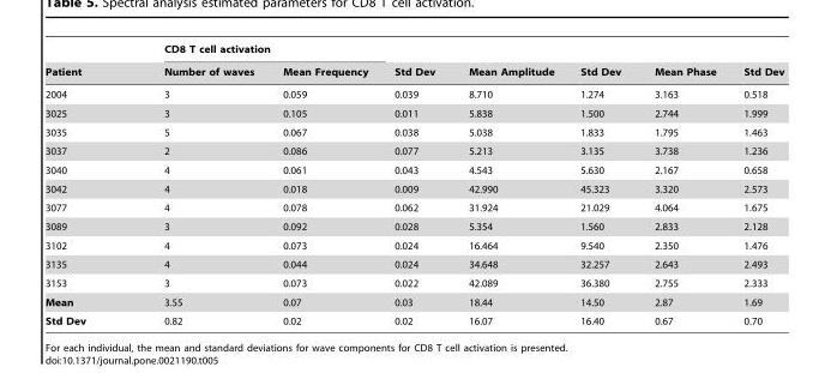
<table><thead><tr><td rowspan="2">Patient</td><td colspan="2">CD8 T cell activation</td><td rowspan="2">Std Dev</td><td rowspan="2">Mean Amplitude</td><td rowspan="2">Std Dev</td><td rowspan="2">Mean Phase</td><td rowspan="2">Std Dev</td></tr><tr><td>Number of waves</td><td>Mean Frequency</td></tr></thead><tbody><tr><td>2004</td><td>3</td><td>0.059</td><td>0.039</td><td>8.710</td><td>1.274</td><td>3.163</td><td>0.518</td></tr><tr><td>3025</td><td>3</td><td>0.105</td><td>0.011</td><td>5.838</td><td>1.500</td><td>2.744</td><td>1.999</td></tr><tr><td>3035</td><td>5</td><td>0.067</td><td>0.038</td><td>5.038</td><td>1.833</td><td>1.795</td><td>1.463</td></tr><tr><td>3037</td><td>2</td><td>0.086</td><td>0.077</td><td>5.213</td><td>3.135</td><td>3.738</td><td>1.236</td></tr><tr><td>3040</td><td>4</td><td>0.061</td><td>0.043</td><td>4.543</td><td>5.630</td><td>2.167</td><td>0.658</td></tr><tr><td>3042</td><td>4</td><td>0.018</td><td>0.009</td><td>42.990</td><td>45.323</td><td>3.320</td><td>2.573</td></tr><tr><td>3077</td><td>4</td><td>0.078</td><td>0.062</td><td>31.924</td><td>21.029</td><td>4.064</td><td>1.675</td></tr><tr><td>3089</td><td>3</td><td>0.092</td><td>0.028</td><td>5.354</td><td>1.560</td><td>2.833</td><td>2.128</td></tr><tr><td>3102</td><td>4</td><td>0.073</td><td>0.024</td><td>16.464</td><td>9.540</td><td>2.350</td><td>1.476</td></tr><tr><td>3135</td><td>4</td><td>0.044</td><td>0.024</td><td>34.648</td><td>32.257</td><td>2.643</td><td>2.493</td></tr><tr><td>3153</td><td>3</td><td>0.073</td><td>0.022</td><td>42.089</td><td>36.380</td><td>2.755</td><td>2.333</td></tr><tr><td>Mean</td><td>3.55</td><td>0.07</td><td>0.03</td><td>18.44</td><td>14.50</td><td>2.87</td><td>1.69</td></tr><tr><td>Std Dev</td><td>0.82</td><td>0.02</td><td>0.02</td><td>16.07</td><td>16.40</td><td>0.67</td><td>0.70</td></tr></tbody></table>